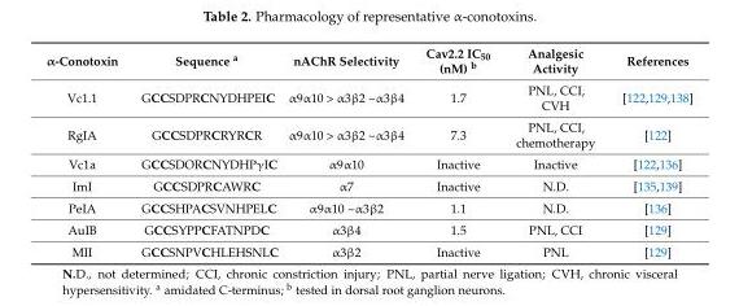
<table><thead><tr><td>α-Conotoxin</td><td>Sequence <sup>a</sup></td><td>nAChR Selectivity</td><td>Cav2.2 IC<sub>50</sub> (nM) <sup>b</sup></td><td>Analgesic Activity</td><td>References</td></tr></thead><tbody><tr><td>Vc1.1</td><td>GCCSDPRCNYDHPEIC</td><td>α9α10 &gt; α3β2 ~α3β4</td><td>1.7</td><td>PNL, CCI, CVH</td><td>[122,129,138]</td></tr><tr><td>RgIA</td><td>GCCSDPRCRYRCR</td><td>α9α10 &gt; α3β2 ~α3β4</td><td>7.3</td><td>PNL, CCI, chemotherapy</td><td>[122]</td></tr><tr><td>Vc1a</td><td>GCCSDORCNYDHPγIC</td><td>α9α10</td><td>Inactive</td><td>Inactive</td><td>[122,136]</td></tr><tr><td>ImI</td><td>GCCSDPRCAWRC</td><td>α7</td><td>Inactive</td><td>N.D.</td><td>[135,139]</td></tr><tr><td>PeIA</td><td>GCCSHPACSVNHPELC</td><td>α9α10 ~α3β2</td><td>1.1</td><td>N.D.</td><td>[136]</td></tr><tr><td>AuIB</td><td>GCCSYPPCFATNPDC</td><td>α3β4</td><td>1.5</td><td>PNL, CCI</td><td>[129]</td></tr><tr><td>MII</td><td>GCCSNPVCHLEHSNLC</td><td>α3β2</td><td>Inactive</td><td>PNL</td><td>[129]</td></tr></tbody></table>